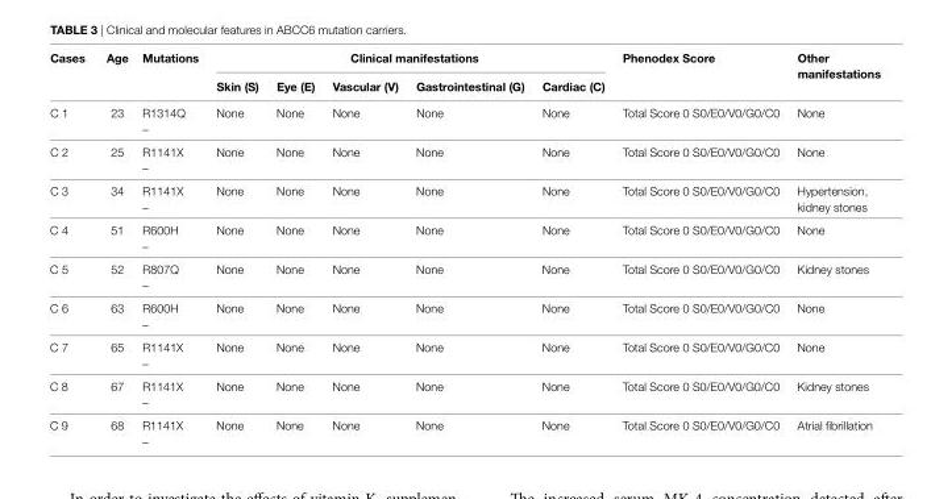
<table><thead><tr><td rowspan="2">cases</td><td rowspan="2">age</td><td rowspan="2">Mutations</td><td colspan="5">clinical manifestations</td><td rowspan="2">Phenodex score</td><td rowspan="2">Other manifestations</td></tr><tr><td>skin (s)</td><td>eye (e)</td><td>Vascular (V)</td><td>gastrointestinal (g)</td><td>cardiac (c)</td></tr></thead><tbody><tr><td>C 1</td><td>23</td><td>R1314Q –</td><td>None</td><td>None</td><td>None</td><td>None</td><td>None</td><td>Total Score 0 S0/E0/V0/G0/C0</td><td>None</td></tr><tr><td>C 2</td><td>25</td><td>R1141X –</td><td>None</td><td>None</td><td>None</td><td>None</td><td>None</td><td>Total Score 0 S0/E0/V0/G0/C0</td><td>None</td></tr><tr><td>C 3</td><td>34</td><td>R1141X –</td><td>None</td><td>None</td><td>None</td><td>None</td><td>None</td><td>Total Score 0 S0/E0/V0/G0/C0</td><td>Hypertension, kidney stones</td></tr><tr><td>C 4</td><td>51</td><td>R600H –</td><td>None</td><td>None</td><td>None</td><td>None</td><td>None</td><td>Total Score 0 S0/E0/V0/G0/C0</td><td>None</td></tr><tr><td>C 5</td><td>52</td><td>R807Q –</td><td>None</td><td>None</td><td>None</td><td>None</td><td>None</td><td>Total Score 0 S0/E0/V0/G0/C0</td><td>Kidney stones</td></tr><tr><td>C 6</td><td>63</td><td>R600H –</td><td>None</td><td>None</td><td>None</td><td>None</td><td>None</td><td>Total Score 0 S0/E0/V0/G0/C0</td><td>None</td></tr><tr><td>C 7</td><td>65</td><td>R1141X –</td><td>None</td><td>None</td><td>None</td><td>None</td><td>None</td><td>Total Score 0 S0/E0/V0/G0/C0</td><td>None</td></tr><tr><td>C 8</td><td>67</td><td>R1141X –</td><td>None</td><td>None</td><td>None</td><td>None</td><td>None</td><td>Total Score 0 S0/E0/V0/G0/C0</td><td>Kidney stones</td></tr><tr><td>C 9</td><td>68</td><td>R1141X –</td><td>None</td><td>None</td><td>None</td><td>None</td><td>None</td><td>Total Score 0 S0/E0/V0/G0/C0</td><td>Atrial fibrillation</td></tr></tbody></table>